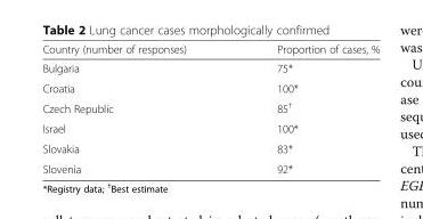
<table><thead><tr><td>Country (number of responses)</td><td>Proportion of cases, %</td></tr></thead><tbody><tr><td>Bulgaria</td><td>75*</td></tr><tr><td>Croatia</td><td>100*</td></tr><tr><td>Czech Republic</td><td>85<sup>†</sup></td></tr><tr><td>Israel</td><td>100*</td></tr><tr><td>Slovakia</td><td>83*</td></tr><tr><td>Slovenia</td><td>92*</td></tr></tbody></table>